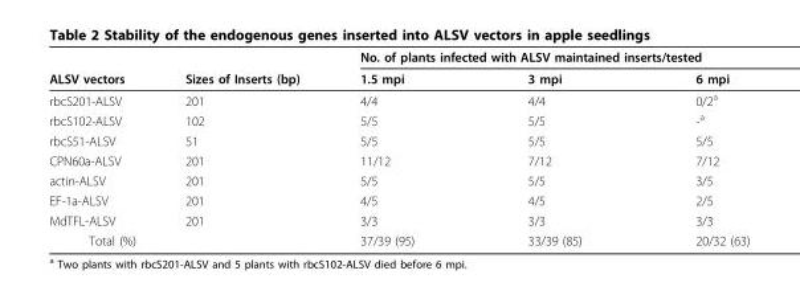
<table><thead><tr><td rowspan="2">ALSV vectors</td><td rowspan="2">Sizes of Inserts (bp)</td><td colspan="3">No. of plants infected with ALSV maintained inserts/tested</td></tr><tr><td>1.5 mpi</td><td>3 mpi</td><td>6 mpi</td></tr></thead><tbody><tr><td>rbcS201-ALSV</td><td>201</td><td>4/4</td><td>4/4</td><td>0/2<sup>a</sup></td></tr><tr><td>rbcS102-ALSV</td><td>102</td><td>5/5</td><td>5/5</td><td>-<sup>a</sup></td></tr><tr><td>rbcS51-ALSV</td><td>51</td><td>5/5</td><td>5/5</td><td>5/5</td></tr><tr><td>CPN60a-ALSV</td><td>201</td><td>11/12</td><td>7/12</td><td>7/12</td></tr><tr><td>actin-ALSV</td><td>201</td><td>5/5</td><td>5/5</td><td>3/5</td></tr><tr><td>EF-1a-ALSV</td><td>201</td><td>4/5</td><td>4/5</td><td>2/5</td></tr><tr><td>MdTFL-ALSV</td><td>201</td><td>3/3</td><td>3/3</td><td>3/3</td></tr><tr><td>Total (%)</td><td></td><td>37/39 (95)</td><td>33/39 (85)</td><td>20/32 (63)</td></tr></tbody></table>